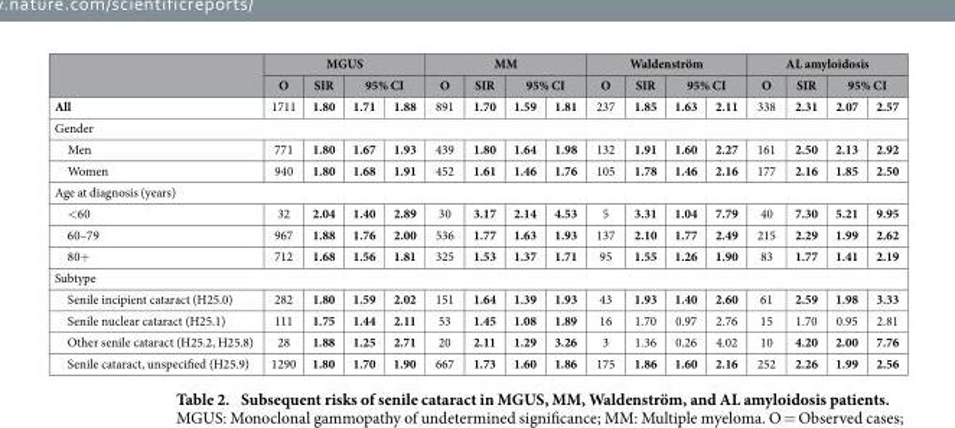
<table><thead><tr><td rowspan="3">All</td><td colspan="4">MGUS</td><td colspan="4">MM</td><td colspan="4">Waldenström</td><td colspan="4">AL amyloidosis</td></tr><tr><td rowspan="2">O 1711</td><td rowspan="2">SIR 1.80</td><td colspan="2">95% CI</td><td rowspan="2">O 891</td><td rowspan="2">SIR 1.70</td><td colspan="2">95% CI</td><td rowspan="2">O 237</td><td rowspan="2">SIR 1.85</td><td colspan="2">95% CI</td><td rowspan="2">O 338</td><td rowspan="2">SIR 2.31</td><td colspan="2">95% CI</td></tr><tr><td>1.71</td><td>1.88</td><td>1.59</td><td>1.81</td><td>1.63</td><td>2.11</td><td>2.07</td><td>2.57</td></tr></thead><tbody><tr><td colspan="17">Gender</td></tr><tr><td>Men</td><td>771</td><td>1.80</td><td>1.67</td><td>1.93</td><td>439</td><td>1.80</td><td>1.64</td><td>1.98</td><td>132</td><td>1.91</td><td>1.60</td><td>2.27</td><td>161</td><td>2.50</td><td>2.13</td><td>2.92</td></tr><tr><td>Women</td><td>940</td><td>1.80</td><td>1.68</td><td>1.91</td><td>452</td><td>1.61</td><td>1.46</td><td>1.76</td><td>105</td><td>1.78</td><td>1.46</td><td>2.16</td><td>177</td><td>2.16</td><td>1.85</td><td>2.50</td></tr><tr><td colspan="17">Age at diagnosis (years)</td></tr><tr><td>&lt; 60</td><td>32</td><td>2.04</td><td>1.40</td><td>2.89</td><td>30</td><td>3.17</td><td>2.14</td><td>4.53</td><td>5</td><td>3.31</td><td>1.04</td><td>7.79</td><td>40</td><td>7.30</td><td>5.21</td><td>9.95</td></tr><tr><td>60–79</td><td>967</td><td>1.88</td><td>1.76</td><td>2.00</td><td>536</td><td>1.77</td><td>1.63</td><td>1.93</td><td>137</td><td>2.10</td><td>1.77</td><td>2.49</td><td>215</td><td>2.29</td><td>1.99</td><td>2.62</td></tr><tr><td>80+</td><td>712</td><td>1.68</td><td>1.56</td><td>1.81</td><td>325</td><td>1.53</td><td>1.37</td><td>1.71</td><td>95</td><td>1.55</td><td>1.26</td><td>1.90</td><td>83</td><td>1.77</td><td>1.41</td><td>2.19</td></tr><tr><td colspan="17">Subtype</td></tr><tr><td>Senile incipient cataract (H25.0)</td><td>282</td><td>1.80</td><td>1.59</td><td>2.02</td><td>151</td><td>1.64</td><td>1.39</td><td>1.93</td><td>43</td><td>1.93</td><td>1.40</td><td>2.60</td><td>61</td><td>2.59</td><td>1.98</td><td>3.33</td></tr><tr><td>Senile nuclear cataract (H25.1)</td><td>111</td><td>1.75</td><td>1.44</td><td>2.11</td><td>53</td><td>1.45</td><td>1.08</td><td>1.89</td><td>16</td><td>1.70</td><td>0.97</td><td>2.76</td><td>15</td><td>1.70</td><td>0.95</td><td>2.81</td></tr><tr><td>Other senile cataract (H25.2, H25.8)</td><td>28</td><td>1.88</td><td>1.25</td><td>2.71</td><td>20</td><td>2.11</td><td>1.29</td><td>3.26</td><td>3</td><td>1.36</td><td>0.26</td><td>4.02</td><td>10</td><td>4.20</td><td>2.00</td><td>7.76</td></tr><tr><td>Senile cataract, unspecified (H25.9)</td><td>1290</td><td>1.80</td><td>1.70</td><td>1.90</td><td>667</td><td>1.73</td><td>1.60</td><td>1.86</td><td>175</td><td>1.86</td><td>1.60</td><td>2.16</td><td>252</td><td>2.26</td><td>1.99</td><td>2.56</td></tr></tbody></table>